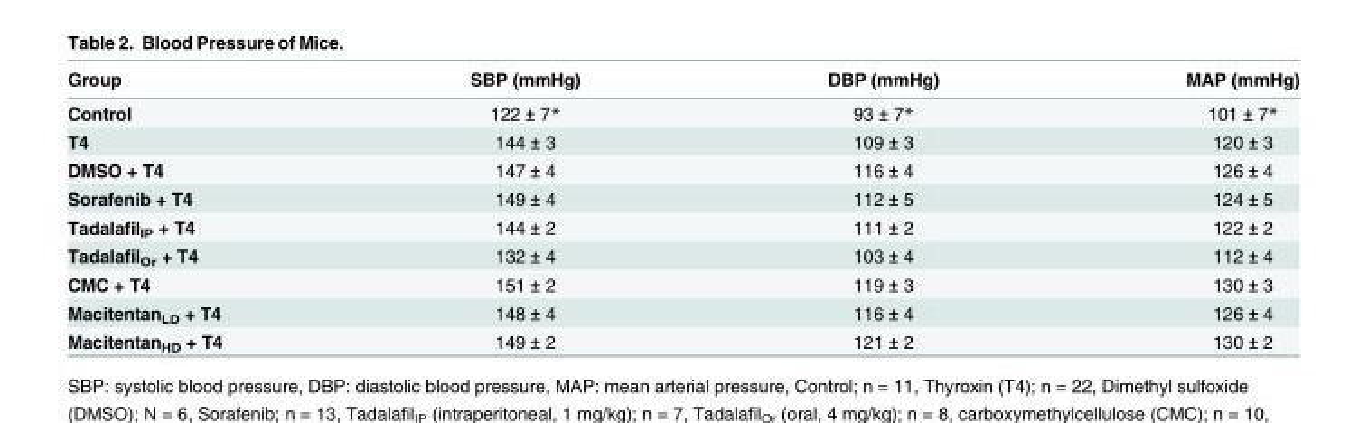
<table><thead><tr><td>Group</td><td>SBP (mmHg)</td><td>DBP (mmHg)</td><td>MAP (mmHg)</td></tr></thead><tbody><tr><td>Control</td><td>122 ± 7*</td><td>93 ± 7*</td><td>101 ± 7*</td></tr><tr><td>T4</td><td>144 ± 3</td><td>109 ± 3</td><td>120 ± 3</td></tr><tr><td>DMSO + T4</td><td>147 ± 4</td><td>116 ± 4</td><td>126 ± 4</td></tr><tr><td>Sorafenib + T4</td><td>149 ± 4</td><td>112 ± 5</td><td>124 ± 5</td></tr><tr><td>Tadalafil<sub>IP</sub> + T4</td><td>144 ± 2</td><td>111 ± 2</td><td>122 ± 2</td></tr><tr><td>Tadalafil<sub>Or</sub> + T4</td><td>132 ± 4</td><td>103 ± 4</td><td>112 ± 4</td></tr><tr><td>CMC + T4</td><td>151 ± 2</td><td>119 ± 3</td><td>130 ± 3</td></tr><tr><td>Macitentan<sub>LD</sub> + T4</td><td>148 ± 4</td><td>116 ± 4</td><td>126 ± 4</td></tr><tr><td>Macitentan<sub>HD</sub> + T4</td><td>149 ± 2</td><td>121 ± 2</td><td>130 ± 2</td></tr></tbody></table>